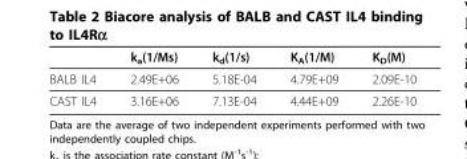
<table><thead><tr><td></td><td>k<sub>a</sub>(1/Ms)</td><td>k<sub>d</sub>(1/s)</td><td>K<sub>A</sub>(1/M)</td><td>K<sub>D</sub>(M)</td></tr></thead><tbody><tr><td>BALB IL4</td><td>2.49E+06</td><td>5.18E-04</td><td>4.79E+09</td><td>2.09E-10</td></tr><tr><td>CAST IL4</td><td>3.16E+06</td><td>7.13E-04</td><td>4.44E+09</td><td>2.26E-10</td></tr></tbody></table>